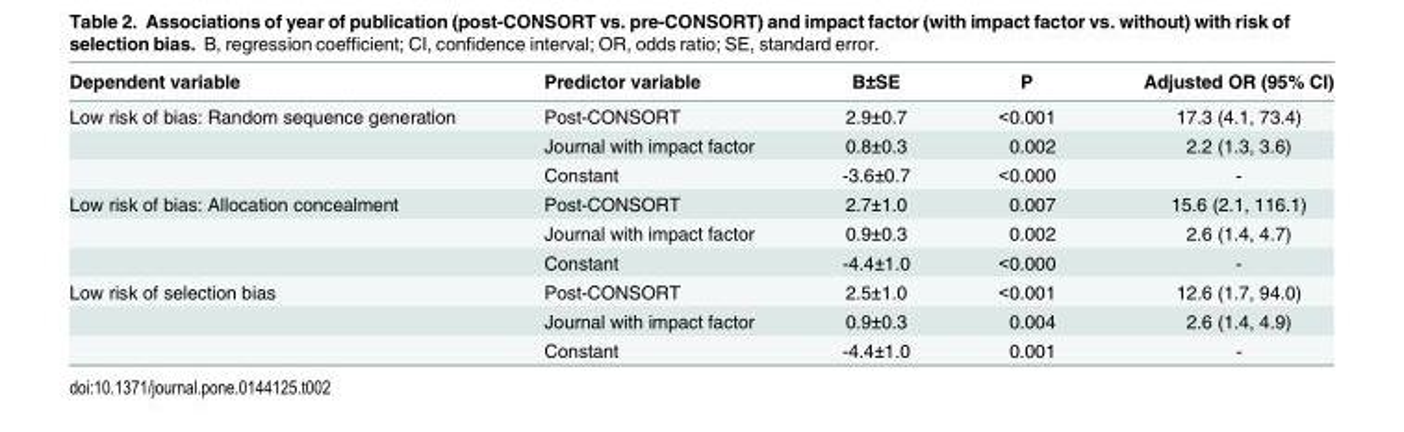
<table><thead><tr><td>Dependent variable</td><td>Predictor variable</td><td>B±SE</td><td>P</td><td>Adjusted OR (95% CI)</td></tr></thead><tbody><tr><td rowspan="3">Low risk of bias: Random sequence generation</td><td>Post-CONSORT</td><td>2.9±0.7</td><td>&lt;0.001</td><td>17.3 (4.1, 73.4)</td></tr><tr><td>Journal with impact factor</td><td>0.8±0.3</td><td>0.002</td><td>2.2 (1.3, 3.6)</td></tr><tr><td>Constant</td><td>-3.6±0.7</td><td>&lt;0.000</td><td>-</td></tr><tr><td rowspan="3">Low risk of bias: Allocation concealment</td><td>Post-CONSORT</td><td>2.7±1.0</td><td>0.007</td><td>15.6 (2.1, 116.1)</td></tr><tr><td>Journal with impact factor</td><td>0.9±0.3</td><td>0.002</td><td>2.6 (1.4, 4.7)</td></tr><tr><td>Constant</td><td>-4.4±1.0</td><td>&lt;0.000</td><td>-</td></tr><tr><td rowspan="3">Low risk of selection bias</td><td>Post-CONSORT</td><td>2.5±1.0</td><td>&lt;0.001</td><td>12.6 (1.7, 94.0)</td></tr><tr><td>Journal with impact factor</td><td>0.9±0.3</td><td>0.004</td><td>2.6 (1.4, 4.9)</td></tr><tr><td>Constant</td><td>-4.4±1.0</td><td>0.001</td><td>-</td></tr></tbody></table>